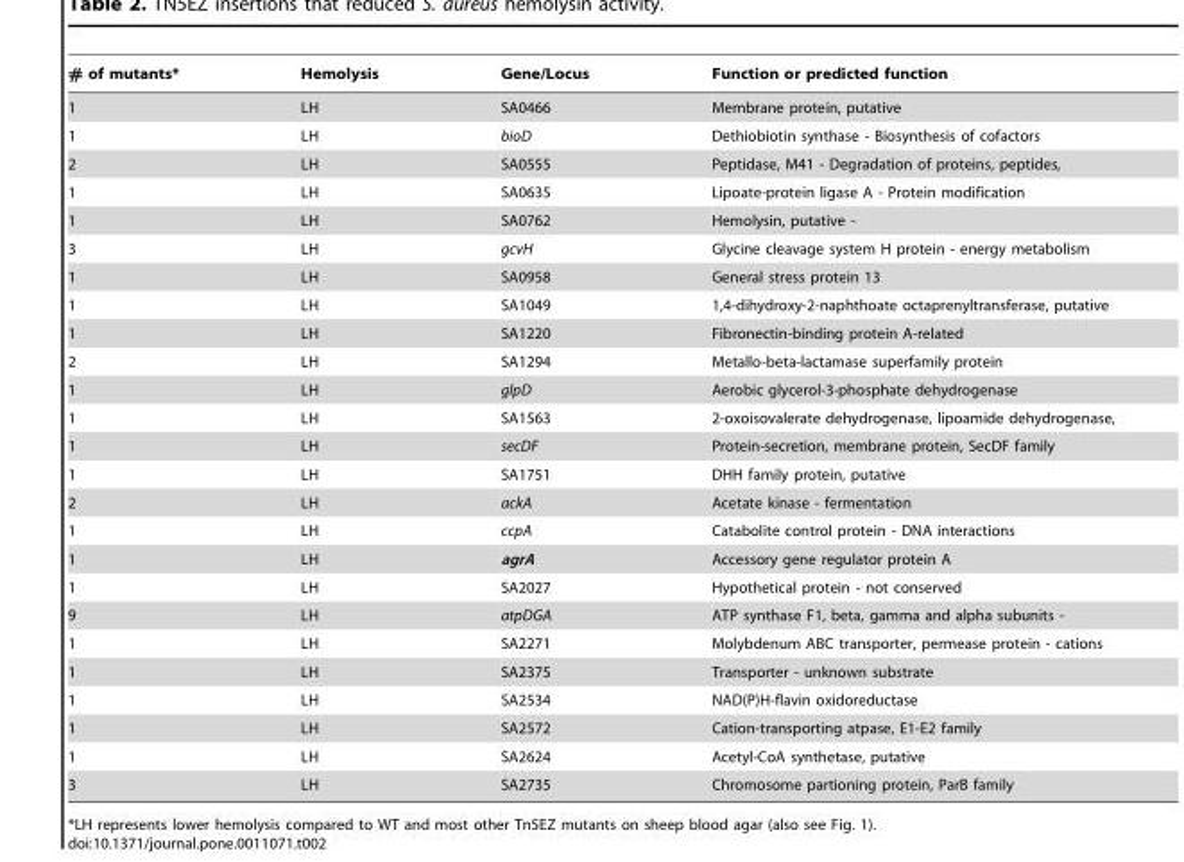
<table><thead><tr><td># of mutants*</td><td>Hemolysis</td><td>Gene/Locus</td><td>Function or predicted function</td></tr></thead><tbody><tr><td>1</td><td>LH</td><td>SA0466</td><td>Membrane protein, putative</td></tr><tr><td>1</td><td>LH</td><td>bioD</td><td>Dethiobiotin synthase - Biosynthesis of cofactors</td></tr><tr><td>2</td><td>LH</td><td>SA0555</td><td>Peptidase, M41 - Degradation of proteins, peptides,</td></tr><tr><td>1</td><td>LH</td><td>SA0635</td><td>Lipoate-protein ligase A - Protein modification</td></tr><tr><td>1</td><td>LH</td><td>SA0762</td><td>Hemolysin, putative -</td></tr><tr><td>3</td><td>LH</td><td>gcvH</td><td>Glycine cleavage system H protein - energy metabolism</td></tr><tr><td>1</td><td>LH</td><td>SA0958</td><td>General stress protein 13</td></tr><tr><td>1</td><td>LH</td><td>SA1049</td><td>1,4-dihydroxy-2-naphthoate octaprenyltransferase, putative</td></tr><tr><td>1</td><td>LH</td><td>SA1220</td><td>Fibronectin-binding protein A-related</td></tr><tr><td>2</td><td>LH</td><td>SA1294</td><td>Metallo-beta-lactamase superfamily protein</td></tr><tr><td>1</td><td>LH</td><td>glpD</td><td>Aerobic glycerol-3-phosphate dehydrogenase</td></tr><tr><td>1</td><td>LH</td><td>SA1563</td><td>2-oxoisovalerate dehydrogenase, lipoamide dehydrogenase,</td></tr><tr><td>1</td><td>LH</td><td>secDF</td><td>Protein-secretion, membrane protein, SecDF family</td></tr><tr><td>1</td><td>LH</td><td>SA1751</td><td>DHH family protein, putative</td></tr><tr><td>2</td><td>LH</td><td>ackA</td><td>Acetate kinase - fermentation</td></tr><tr><td>1</td><td>LH</td><td>ccpA</td><td>Catabolite control protein - DNA interactions</td></tr><tr><td>1</td><td>LH</td><td>agrA</td><td>Accessory gene regulator protein A</td></tr><tr><td>1</td><td>LH</td><td>SA2027</td><td>Hypothetical protein - not conserved</td></tr><tr><td>9</td><td>LH</td><td>atpDGA</td><td>ATP synthase F1, beta, gamma and alpha subunits -</td></tr><tr><td>1</td><td>LH</td><td>SA2271</td><td>Molybdenum ABC transporter, permease protein - cations</td></tr><tr><td>1</td><td>LH</td><td>SA2375</td><td>Transporter - unknown substrate</td></tr><tr><td>1</td><td>LH</td><td>SA2534</td><td>NAD(P)H-flavin oxidoreductase</td></tr><tr><td>1</td><td>LH</td><td>SA2572</td><td>Cation-transporting atpase, E1-E2 family</td></tr><tr><td>1</td><td>LH</td><td>SA2624</td><td>Acetyl-CoA synthetase, putative</td></tr><tr><td>3</td><td>LH</td><td>SA2735</td><td>Chromosome partioning protein, ParB family</td></tr></tbody></table>